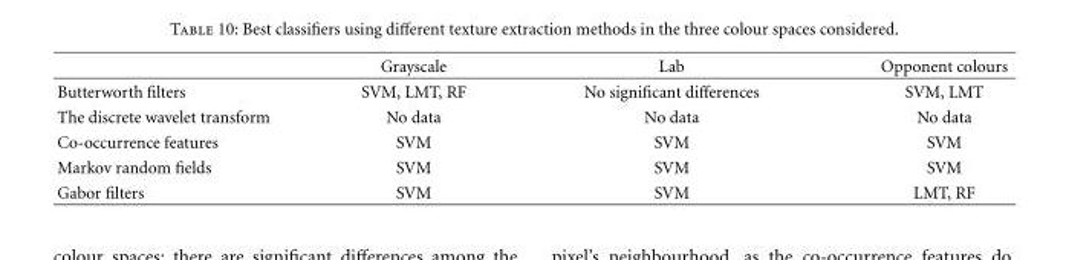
<table><thead><tr><td></td><td>Grayscale</td><td>Lab</td><td>Opponent colours</td></tr></thead><tbody><tr><td>Butterworth filters</td><td>SVM, LMT, RF</td><td>No significant differences</td><td>SVM, LMT</td></tr><tr><td>The discrete wavelet transform</td><td>No data</td><td>No data</td><td>No data</td></tr><tr><td>Co-occurrence features</td><td>SVM</td><td>SVM</td><td>SVM</td></tr><tr><td>Markov random fields</td><td>SVM</td><td>SVM</td><td>SVM</td></tr><tr><td>Gabor filters</td><td>SVM</td><td>SVM</td><td>LMT, RF</td></tr></tbody></table>